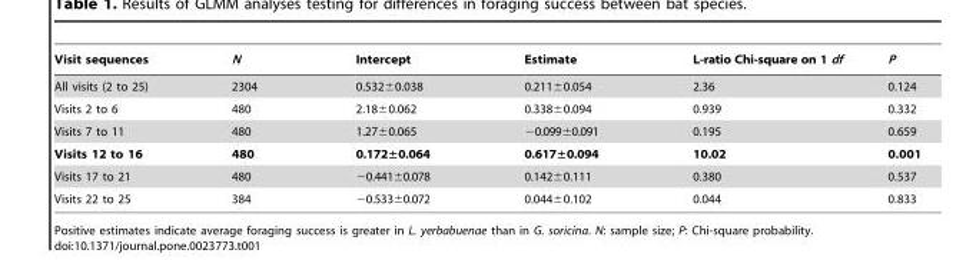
<table><thead><tr><td>Visit sequences</td><td>N</td><td>Intercept</td><td>Estimate</td><td>L-ratio Chi-square on 1 df</td><td>P</td></tr></thead><tbody><tr><td>All visits (2 to 25)</td><td>2304</td><td>0.532±0.038</td><td>0.211±0.054</td><td>2.36</td><td>0.124</td></tr><tr><td>Visits 2 to 6</td><td>480</td><td>2.18±0.062</td><td>0.338±0.094</td><td>0.939</td><td>0.332</td></tr><tr><td>Visits 7 to 11</td><td>480</td><td>1.27±0.065</td><td>−0.099±0.091</td><td>0.195</td><td>0.659</td></tr><tr><td>Visits 12 to 16</td><td>480</td><td>0.172±0.064</td><td>0.617±0.094</td><td>10.02</td><td>0.001</td></tr><tr><td>Visits 17 to 21</td><td>480</td><td>−0.441±0.078</td><td>0.142±0.111</td><td>0.380</td><td>0.537</td></tr><tr><td>Visits 22 to 25</td><td>384</td><td>−0.533±0.072</td><td>0.044±0.102</td><td>0.044</td><td>0.833</td></tr></tbody></table>